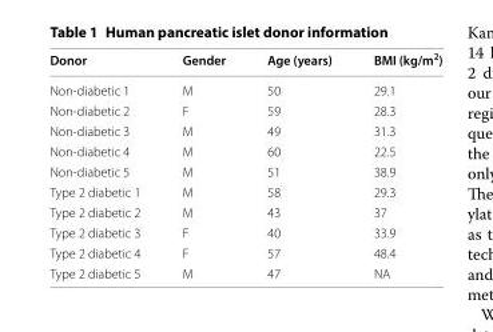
<table><thead><tr><td>Donor</td><td>Gender</td><td>Age (years)</td><td>BMI (kg/m<sup>2</sup>)</td></tr></thead><tbody><tr><td>Non-diabetic 1</td><td>M</td><td>50</td><td>29.1</td></tr><tr><td>Non-diabetic 2</td><td>F</td><td>59</td><td>28.3</td></tr><tr><td>Non-diabetic 3</td><td>M</td><td>49</td><td>31.3</td></tr><tr><td>Non-diabetic 4</td><td>M</td><td>60</td><td>22.5</td></tr><tr><td>Non-diabetic 5</td><td>M</td><td>51</td><td>38.9</td></tr><tr><td>Type 2 diabetic 1</td><td>M</td><td>58</td><td>29.3</td></tr><tr><td>Type 2 diabetic 2</td><td>M</td><td>43</td><td>37</td></tr><tr><td>Type 2 diabetic 3</td><td>F</td><td>40</td><td>33.9</td></tr><tr><td>Type 2 diabetic 4</td><td>F</td><td>57</td><td>48.4</td></tr><tr><td>Type 2 diabetic 5</td><td>M</td><td>47</td><td>NA</td></tr></tbody></table>